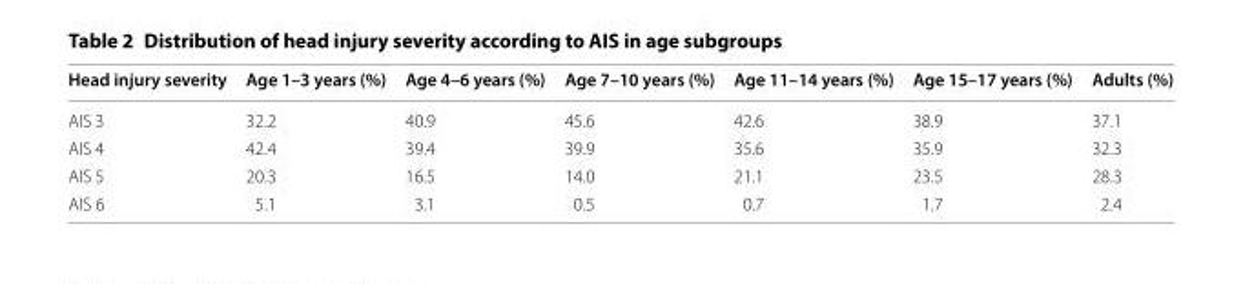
<table><thead><tr><td>Head injury severity</td><td>Age 1–3 years (%)</td><td>Age 4–6 years (%)</td><td>Age 7–10 years (%)</td><td>Age 11–14 years (%)</td><td>Age 15–17 years (%)</td><td>Adults (%)</td></tr></thead><tbody><tr><td>AIS 3</td><td>32.2</td><td>40.9</td><td>45.6</td><td>42.6</td><td>38.9</td><td>37.1</td></tr><tr><td>AIS 4</td><td>42.4</td><td>39.4</td><td>39.9</td><td>35.6</td><td>35.9</td><td>32.3</td></tr><tr><td>AIS 5</td><td>20.3</td><td>16.5</td><td>14.0</td><td>21.1</td><td>23.5</td><td>28.3</td></tr><tr><td>AIS 6</td><td>5.1</td><td>3.1</td><td>0.5</td><td>0.7</td><td>1.7</td><td>2.4</td></tr></tbody></table>